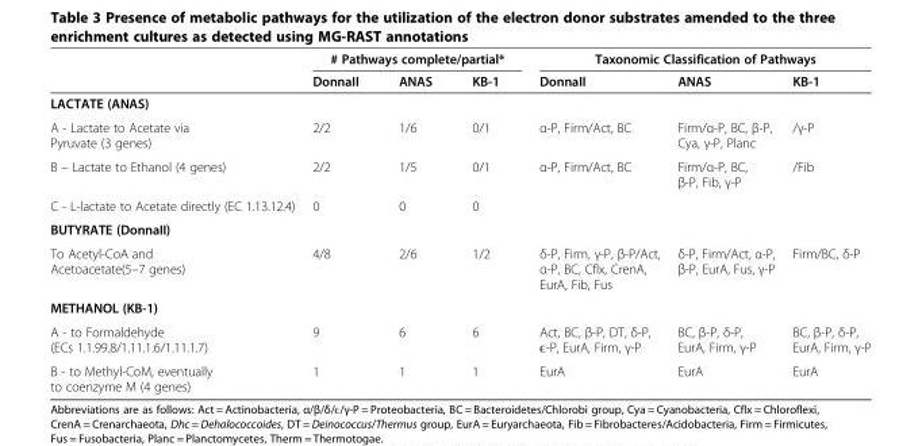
<table><thead><tr><td rowspan="2"></td><td colspan="3"># Pathways complete/partial*</td><td colspan="3">Taxonomic Classification of Pathways</td></tr><tr><td>DonnaII</td><td>ANAS</td><td>KB-1</td><td>DonnaII</td><td>ANAS</td><td>KB-1</td></tr></thead><tbody><tr><td colspan="7">LACTATE (ANAS)</td></tr><tr><td>A - Lactate to Acetate via Pyruvate (3 genes)</td><td>2/2</td><td>1/6</td><td>0/1</td><td>α-P, Firm/Act, BC</td><td>Firm/α-P, BC, β-P, Cya, γ-P, Planc</td><td>/γ-P</td></tr><tr><td>B – Lactate to Ethanol (4 genes)</td><td>2/2</td><td>1/5</td><td>0/1</td><td>α-P, Firm/Act, BC</td><td>Firm/α-P, BC, β-P, Fib, γ-P</td><td>/Fib</td></tr><tr><td>C - L-lactate to Acetate directly (EC 1.13.12.4)</td><td>0</td><td>0</td><td>0</td><td></td><td></td><td></td></tr><tr><td colspan="7">BUTYRATE (DonnaII)</td></tr><tr><td>To Acetyl-CoA and Acetoacetate(5–7 genes)</td><td>4/8</td><td>2/6</td><td>1/2</td><td>δ-P, Firm, γ-P, β-P/Act, α-P, BC, Cflx, CrenA, EurA, Fib, Fus</td><td>δ-P, Firm/Act, α-P, β-P, EurA, Fus, γ-P</td><td>Firm/BC, δ-P</td></tr><tr><td colspan="7">METHANOL (KB-1)</td></tr><tr><td>A - to Formaldehyde (ECs 1.1.99.8/1.11.1.6/1.11.1.7)</td><td>9</td><td>6</td><td>6</td><td>Act, BC, β-P, DT, δ-P, ϵ-P, EurA, Firm, γ-P</td><td>BC, β-P, δ-P, EurA, Firm, γ-P</td><td>BC, β-P, δ-P, EurA, Firm, γ-P</td></tr><tr><td>B - to Methyl-CoM, eventually to coenzyme M (4 genes)</td><td>1</td><td>1</td><td>1</td><td>EurA</td><td>EurA</td><td>EurA</td></tr></tbody></table>